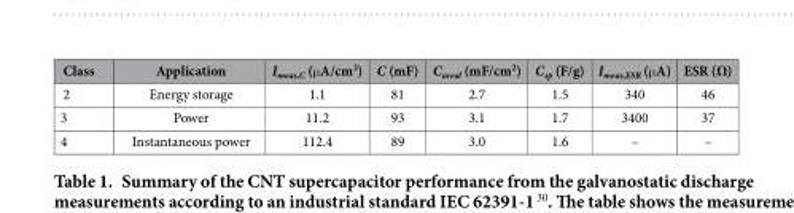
<table><thead><tr><td>Class</td><td>Application</td><td>I<sub>meas,C</sub> (µA/cm<sup>2</sup>)</td><td>C (mF)</td><td>C<sub>areal</sub> (mF/cm<sup>2</sup>)</td><td>C<sub>sp</sub> (F/g)</td><td>I<sub>meas,ESR</sub> (µA)</td><td>ESR (Ω)</td></tr></thead><tbody><tr><td>2</td><td>Energy storage</td><td>1.1</td><td>81</td><td>2.7</td><td>1.5</td><td>340</td><td>46</td></tr><tr><td>3</td><td>Power</td><td>11.2</td><td>93</td><td>3.1</td><td>1.7</td><td>3400</td><td>37</td></tr><tr><td>4</td><td>Instantaneous power</td><td>112.4</td><td>89</td><td>3.0</td><td>1.6</td><td>–</td><td>–</td></tr></tbody></table>